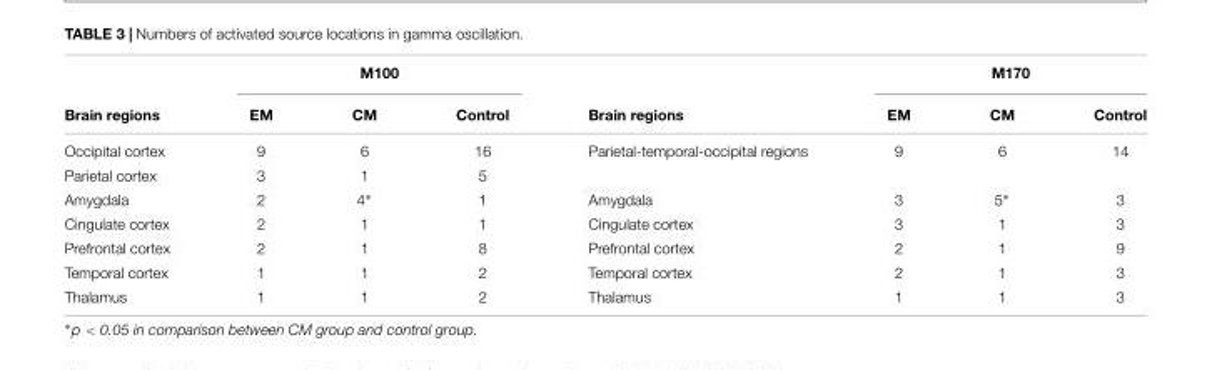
<table><thead><tr><td rowspan="2">Brain regions</td><td colspan="3">M100</td><td rowspan="2">Brain regions</td><td colspan="3">M170</td></tr><tr><td>EM</td><td>CM</td><td>Control</td><td>EM</td><td>CM</td><td>Control</td></tr></thead><tbody><tr><td>Occipital cortex</td><td>9</td><td>6</td><td>16</td><td>Parietal-temporal-occipital regions</td><td>9</td><td>6</td><td>14</td></tr><tr><td>Parietal cortex</td><td>3</td><td>1</td><td>5</td><td></td><td></td><td></td><td></td></tr><tr><td>Amygdala</td><td>2</td><td>4∗</td><td>1</td><td>Amygdala</td><td>3</td><td>5∗</td><td>3</td></tr><tr><td>Cingulate cortex</td><td>2</td><td>1</td><td>1</td><td>Cingulate cortex</td><td>3</td><td>1</td><td>3</td></tr><tr><td>Prefrontal cortex</td><td>2</td><td>1</td><td>8</td><td>Prefrontal cortex</td><td>2</td><td>1</td><td>9</td></tr><tr><td>Temporal cortex</td><td>1</td><td>1</td><td>2</td><td>Temporal cortex</td><td>2</td><td>1</td><td>3</td></tr><tr><td>Thalamus</td><td>1</td><td>1</td><td>2</td><td>Thalamus</td><td>1</td><td>1</td><td>3</td></tr></tbody></table>